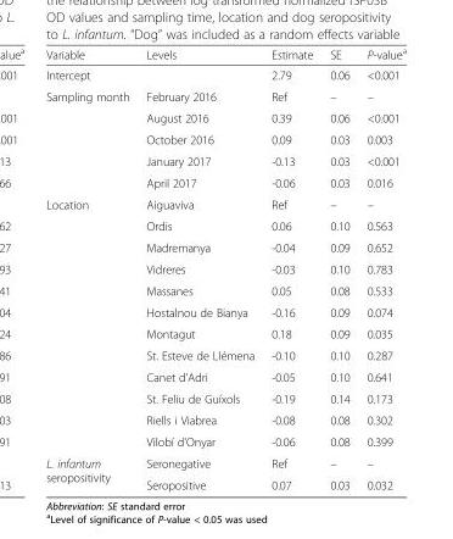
<table><thead><tr><td>Variable</td><td>Levels</td><td>Estimate</td><td>SE</td><td>P-value<sup>a</sup></td></tr></thead><tbody><tr><td>Intercept</td><td></td><td>2.79</td><td>0.06</td><td>&lt;0.001</td></tr><tr><td rowspan="5">Sampling month</td><td>February 2016</td><td>Ref</td><td>–</td><td>–</td></tr><tr><td>August 2016</td><td>0.39</td><td>0.06</td><td>&lt;0.001</td></tr><tr><td>October 2016</td><td>0.09</td><td>0.03</td><td>0.003</td></tr><tr><td>January 2017</td><td>-0.13</td><td>0.03</td><td>&lt;0.001</td></tr><tr><td>April 2017</td><td>-0.06</td><td>0.03</td><td>0.016</td></tr><tr><td rowspan="12">Location</td><td>Aiguaviva</td><td>Ref</td><td>–</td><td>–</td></tr><tr><td>Ordis</td><td>0.06</td><td>0.10</td><td>0.563</td></tr><tr><td>Madremanya</td><td>-0.04</td><td>0.09</td><td>0.652</td></tr><tr><td>Vidreres</td><td>-0.03</td><td>0.10</td><td>0.783</td></tr><tr><td>Massanes</td><td>0.05</td><td>0.08</td><td>0.533</td></tr><tr><td>Hostalnou de Bianya</td><td>-0.16</td><td>0.09</td><td>0.074</td></tr><tr><td>Montagut</td><td>0.18</td><td>0.09</td><td>0.035</td></tr><tr><td>St. Esteve de Llémena</td><td>-0.10</td><td>0.10</td><td>0.287</td></tr><tr><td>Canet d&#x27;Adri</td><td>-0.05</td><td>0.10</td><td>0.641</td></tr><tr><td>St. Feliu de Guíxols</td><td>-0.19</td><td>0.14</td><td>0.173</td></tr><tr><td>Riells i Viabrea</td><td>-0.08</td><td>0.08</td><td>0.302</td></tr><tr><td>Vilobí d&#x27;Onyar</td><td>-0.06</td><td>0.08</td><td>0.399</td></tr><tr><td rowspan="2">L. infantum seropositivity</td><td>Seronegative</td><td>Ref</td><td>–</td><td>–</td></tr><tr><td>Seropositive</td><td>0.07</td><td>0.03</td><td>0.032</td></tr></tbody></table>